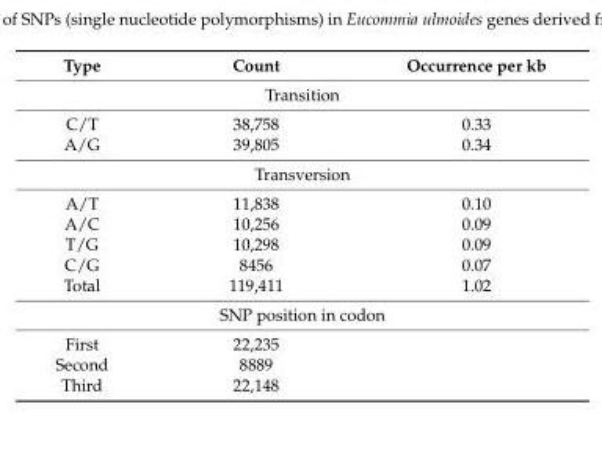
<table><thead><tr><td>Type</td><td>Count</td><td>Occurrence per kb</td></tr></thead><tbody><tr><td colspan="3">Transition</td></tr><tr><td>C/T</td><td>38,758</td><td>0.33</td></tr><tr><td>A/G</td><td>39,805</td><td>0.34</td></tr><tr><td colspan="3">Transversion</td></tr><tr><td>A/T</td><td>11,838</td><td>0.10</td></tr><tr><td>A/C</td><td>10,256</td><td>0.09</td></tr><tr><td>T/G</td><td>10,298</td><td>0.09</td></tr><tr><td>C/G</td><td>8456</td><td>0.07</td></tr><tr><td>Total</td><td>119,411</td><td>1.02</td></tr><tr><td colspan="3">SNP position in codon</td></tr><tr><td>First</td><td>22,235</td><td></td></tr><tr><td>Second</td><td>8889</td><td></td></tr><tr><td>Third</td><td>22,148</td><td></td></tr></tbody></table>